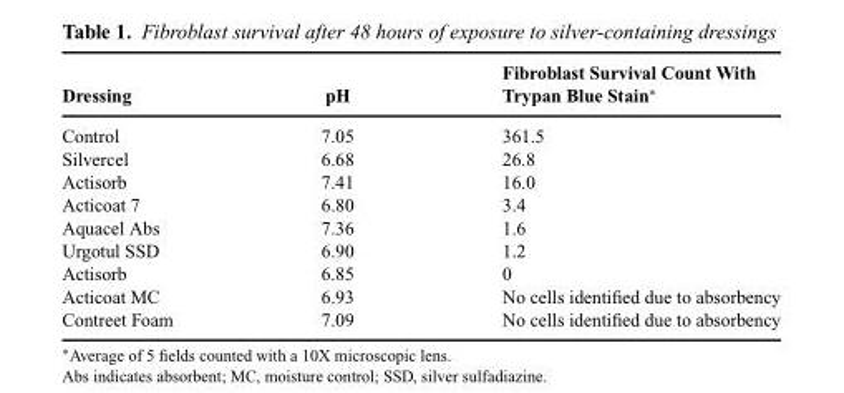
<table><thead><tr><td rowspan="2">Dressing</td><td rowspan="2">pH</td><td rowspan="2">Fibroblast Survival Count With Trypan Blue Stain∗</td></tr><tr></tr></thead><tbody><tr><td>Control</td><td>7.05</td><td>361.5</td></tr><tr><td>Silvercel</td><td>6.68</td><td>26.8</td></tr><tr><td>Actisorb</td><td>7.41</td><td>16.0</td></tr><tr><td>Acticoat 7</td><td>6.80</td><td>3.4</td></tr><tr><td>Aquacel Abs</td><td>7.36</td><td>1.6</td></tr><tr><td>Urgotul SSD</td><td>6.90</td><td>1.2</td></tr><tr><td>Actisorb</td><td>6.85</td><td>0</td></tr><tr><td>Acticoat MC</td><td>6.93</td><td>No cells identified due to absorbency</td></tr><tr><td>Contreet Foam</td><td>7.09</td><td>No cells identified due to absorbency</td></tr></tbody></table>